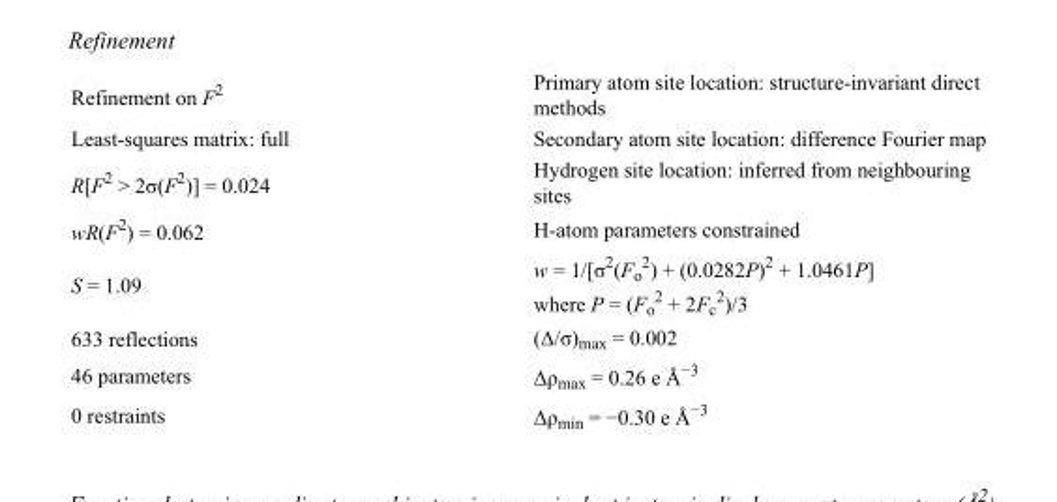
<table><tbody><tr><td>Refinement on F<sup>2</sup></td><td>Primary atom site location: structure-invariant direct methods</td></tr><tr><td>Least-squares matrix: full</td><td>Secondary atom site location: difference Fourier map</td></tr><tr><td>R[F<sup>2</sup> &gt; 2σ(F<sup>2</sup>)] = 0.024</td><td>Hydrogen site location: inferred from neighbouring sites</td></tr><tr><td>wR(F<sup>2</sup>) = 0.062</td><td>H-atom parameters constrained</td></tr><tr><td>S = 1.09</td><td>w = 1/[σ<sup>2</sup>(F<sub>o</sub> <sup>2</sup>) + (0.0282P)<sup>2</sup> + 1.0461P] where P = (F<sub>o</sub> <sup>2</sup> + 2F<sub>c</sub> <sup>2</sup>)/3</td></tr><tr><td>633 reflections</td><td>(Δ/σ)<sub>max</sub> = 0.002</td></tr><tr><td>46 parameters</td><td>Δρ<sub>max</sub> = 0.26 e Å<sup>−3</sup></td></tr><tr><td>0 restraints</td><td>Δρ<sub>min</sub> = −0.30 e Å<sup>−3</sup></td></tr></tbody></table>